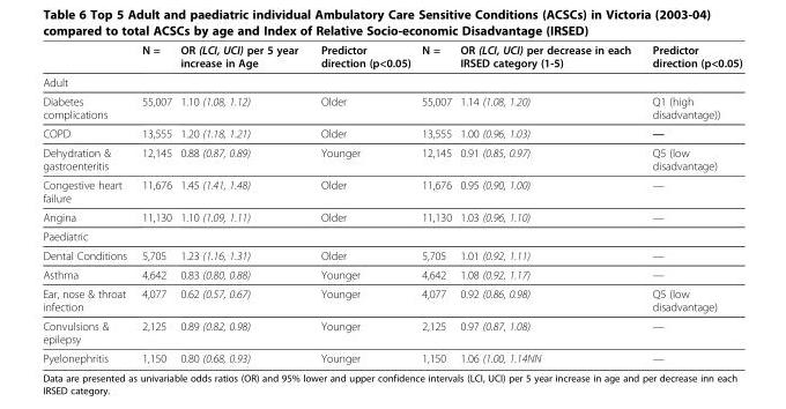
<table><thead><tr><td></td><td>N =</td><td>OR (LCI, UCI) per 5 year increase in Age</td><td>Predictor direction (p&lt;0.05)</td><td>N =</td><td>OR (LCI, UCI) per decrease in each IRSED category (1-5)</td><td>Predictor direction (p&lt;0.05)</td></tr></thead><tbody><tr><td colspan="7">Adult</td></tr><tr><td>Diabetes complications</td><td>55,007</td><td>1.10 (1.08, 1.12)</td><td>Older</td><td>55,007</td><td>1.14 (1.08, 1.20)</td><td>Q1 (high disadvantage))</td></tr><tr><td>COPD</td><td>13,555</td><td>1.20 (1.18, 1.21)</td><td>Older</td><td>13,555</td><td>1.00 (0.96, 1.03)</td><td>—</td></tr><tr><td>Dehydration &amp; gastroenteritis</td><td>12,145</td><td>0.88 (0.87, 0.89)</td><td>Younger</td><td>12,145</td><td>0.91 (0.85, 0.97)</td><td>Q5 (low disadvantage)</td></tr><tr><td>Congestive heart failure</td><td>11,676</td><td>1.45 (1.41, 1.48)</td><td>Older</td><td>11,676</td><td>0.95 (0.90, 1.00)</td><td>—</td></tr><tr><td>Angina</td><td>11,130</td><td>1.10 (1.09, 1.11)</td><td>Older</td><td>11,130</td><td>1.03 (0.96, 1.10)</td><td>—</td></tr><tr><td colspan="7">Paediatric</td></tr><tr><td>Dental Conditions</td><td>5,705</td><td>1.23 (1.16, 1.31)</td><td>Older</td><td>5,705</td><td>1.01 (0.92, 1.11)</td><td>—</td></tr><tr><td>Asthma</td><td>4,642</td><td>0.83 (0.80, 0.88)</td><td>Younger</td><td>4,642</td><td>1.08 (0.92, 1.17)</td><td>—</td></tr><tr><td>Ear, nose &amp; throat infection</td><td>4,077</td><td>0.62 (0.57, 0.67)</td><td>Younger</td><td>4,077</td><td>0.92 (0.86, 0.98)</td><td>Q5 (low disadvantage)</td></tr><tr><td>Convulsions &amp; epilepsy</td><td>2,125</td><td>0.89 (0.82, 0.98)</td><td>Younger</td><td>2,125</td><td>0.97 (0.87, 1.08)</td><td>—</td></tr><tr><td>Pyelonephritis</td><td>1,150</td><td>0.80 (0.68, 0.93)</td><td>Younger</td><td>1,150</td><td>1.06 (1.00, 1.14NN</td><td>—</td></tr></tbody></table>